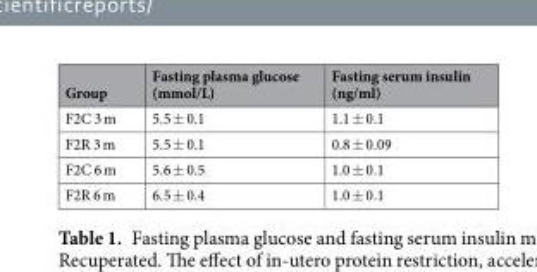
<table><thead><tr><td>Group</td><td>Fasting plasma glucose (mmol/L)</td><td>Fasting serum insulin (ng/ml)</td></tr></thead><tbody><tr><td>F2C 3 m</td><td>5.5 ± 0.1</td><td>1.1 ± 0.1</td></tr><tr><td>F2R 3 m</td><td>5.5 ± 0.1</td><td>0.8 ± 0.09</td></tr><tr><td>F2C 6 m</td><td>5.6 ± 0.5</td><td>1.0 ± 0.1</td></tr><tr><td>F2R 6 m</td><td>6.5 ± 0.4</td><td>1.0 ± 0.1</td></tr></tbody></table>